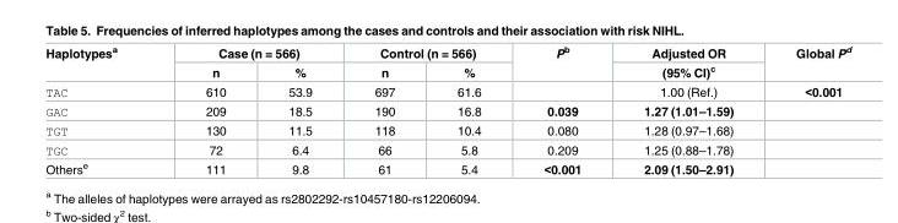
<table><thead><tr><td rowspan="2">Haplotypes<sup>a</sup></td><td colspan="2">Case (n = 566)</td><td colspan="2">Control (n = 566)</td><td rowspan="2">P<sup>b</sup></td><td rowspan="2">Adjusted OR (95% CI)<sup>c</sup></td><td rowspan="2">Global P<sup>d</sup></td></tr><tr><td>n</td><td>%</td><td>n</td><td>%</td></tr></thead><tbody><tr><td>TAC</td><td>610</td><td>53.9</td><td>697</td><td>61.6</td><td></td><td>1.00 (Ref.)</td><td>&lt;0.001</td></tr><tr><td>GAC</td><td>209</td><td>18.5</td><td>190</td><td>16.8</td><td>0.039</td><td>1.27 (1.01–1.59)</td><td></td></tr><tr><td>TGT</td><td>130</td><td>11.5</td><td>118</td><td>10.4</td><td>0.080</td><td>1.28 (0.97–1.68)</td><td></td></tr><tr><td>TGC</td><td>72</td><td>6.4</td><td>66</td><td>5.8</td><td>0.209</td><td>1.25 (0.88–1.78)</td><td></td></tr><tr><td>Others<sup>e</sup></td><td>111</td><td>9.8</td><td>61</td><td>5.4</td><td>&lt;0.001</td><td>2.09 (1.50–2.91)</td><td></td></tr></tbody></table>